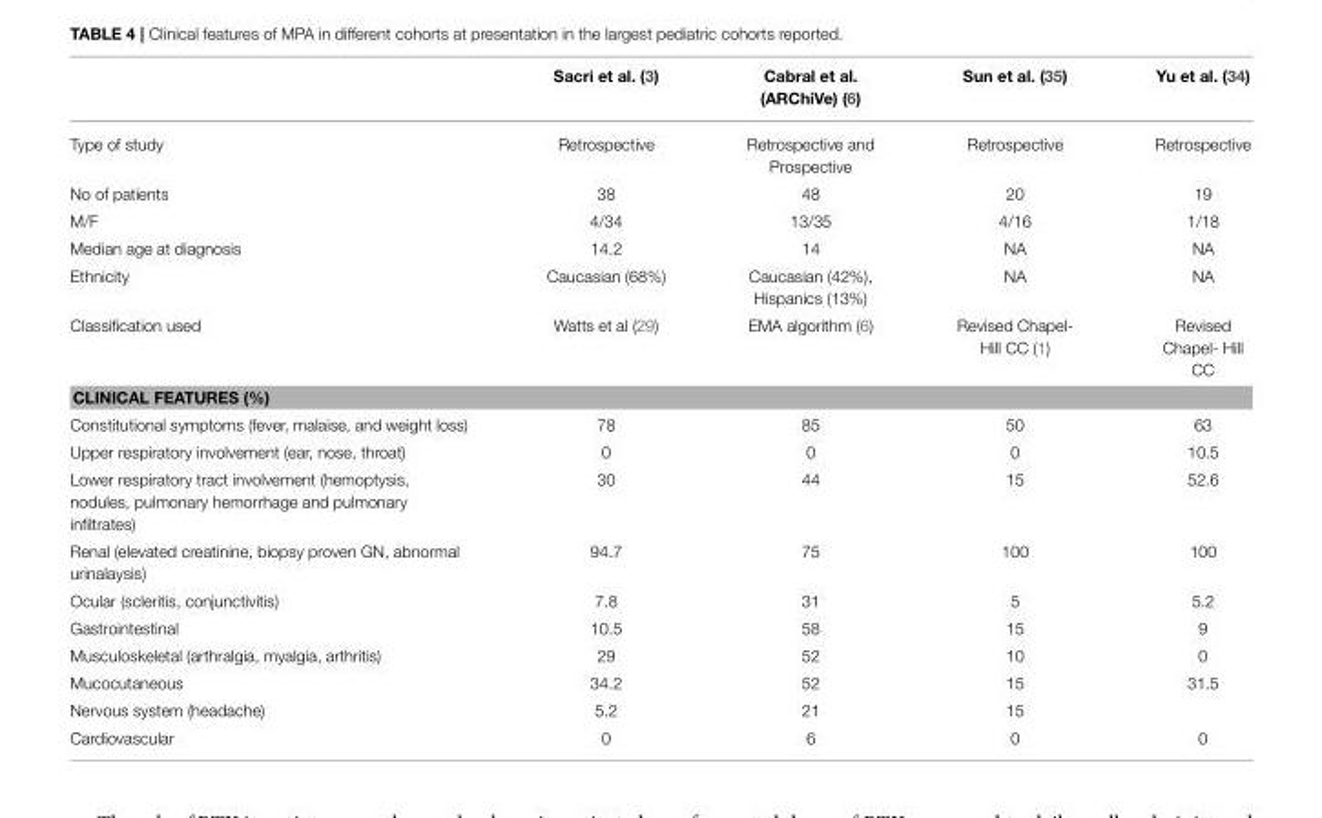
<table><thead><tr><td></td><td>Sacri et al. (3)</td><td>Cabral et al. (ARChiVe) (6)</td><td>Sun et al. (35)</td><td>Yu et al. (34)</td></tr></thead><tbody><tr><td>Type of study</td><td>Retrospective</td><td>Retrospective and Prospective</td><td>Retrospective</td><td>Retrospective</td></tr><tr><td>No of patients</td><td>38</td><td>48</td><td>20</td><td>19</td></tr><tr><td>M/F</td><td>4/34</td><td>13/35</td><td>4/16</td><td>1/18</td></tr><tr><td>Median age at diagnosis</td><td>14.2</td><td>14</td><td>NA</td><td>NA</td></tr><tr><td>Ethnicity</td><td>Caucasian (68%)</td><td>Caucasian (42%), Hispanics (13%)</td><td>NA</td><td>NA</td></tr><tr><td>Classification used</td><td>Watts et al (29)</td><td>EMA algorithm (6)</td><td>Revised Chapel- Hill CC (1)</td><td>Revised Chapel- Hill CC</td></tr><tr><td colspan="5">CLINICAL FEATURES (%)</td></tr><tr><td>Constitutional symptoms (fever, malaise, and weight loss)</td><td>78</td><td>85</td><td>50</td><td>63</td></tr><tr><td>Upper respiratory involvement (ear, nose, throat)</td><td>0</td><td>0</td><td>0</td><td>10.5</td></tr><tr><td>Lower respiratory tract involvement (hemoptysis, nodules, pulmonary hemorrhage and pulmonary infiltrates)</td><td>30</td><td>44</td><td>15</td><td>52.6</td></tr><tr><td>Renal (elevated creatinine, biopsy proven GN, abnormal urinalaysis)</td><td>94.7</td><td>75</td><td>100</td><td>100</td></tr><tr><td>Ocular (scleritis, conjunctivitis)</td><td>7.8</td><td>31</td><td>5</td><td>5.2</td></tr><tr><td>Gastrointestinal</td><td>10.5</td><td>58</td><td>15</td><td>9</td></tr><tr><td>Musculoskeletal (arthralgia, myalgia, arthritis)</td><td>29</td><td>52</td><td>10</td><td>0</td></tr><tr><td>Mucocutaneous</td><td>34.2</td><td>52</td><td>15</td><td>31.5</td></tr><tr><td>Nervous system (headache)</td><td>5.2</td><td>21</td><td>15</td><td></td></tr><tr><td>Cardiovascular</td><td>0</td><td>6</td><td>0</td><td>0</td></tr></tbody></table>